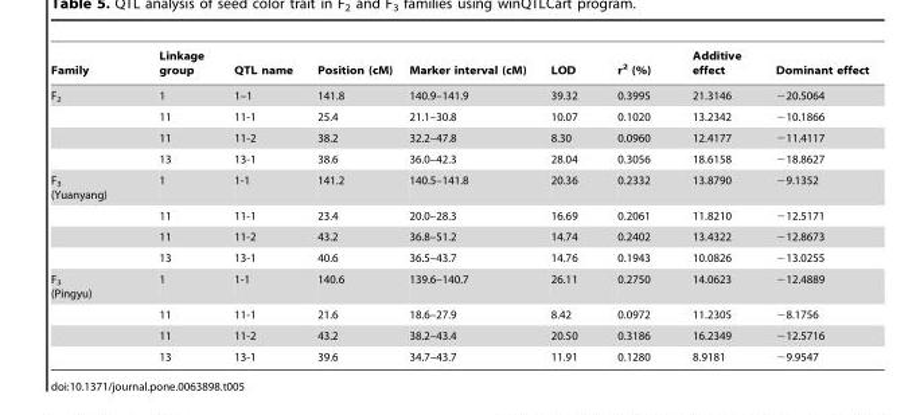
<table><thead><tr><td>Family</td><td>Linkage group</td><td>QTL name</td><td>Position (cM)</td><td>Marker interval (cM)</td><td>LOD</td><td>r<sup>2</sup> (%)</td><td>Additive effect</td><td>Dominant effect</td></tr></thead><tbody><tr><td rowspan="4">F<sub>2</sub></td><td>1</td><td>1–1</td><td>141.8</td><td>140.9–141.9</td><td>39.32</td><td>0.3995</td><td>21.3146</td><td>−20.5064</td></tr><tr><td>11</td><td>11-1</td><td>25.4</td><td>21.1–30.8</td><td>10.07</td><td>0.1020</td><td>13.2342</td><td>−10.1866</td></tr><tr><td>11</td><td>11-2</td><td>38.2</td><td>32.2–47.8</td><td>8.30</td><td>0.0960</td><td>12.4177</td><td>−11.4117</td></tr><tr><td>13</td><td>13-1</td><td>38.6</td><td>36.0–42.3</td><td>28.04</td><td>0.3056</td><td>18.6158</td><td>−18.8627</td></tr><tr><td rowspan="4">F<sub>3</sub> (Yuanyang)</td><td>1</td><td>1-1</td><td>141.2</td><td>140.5–141.8</td><td>20.36</td><td>0.2332</td><td>13.8790</td><td>−9.1352</td></tr><tr><td>11</td><td>11-1</td><td>23.4</td><td>20.0–28.3</td><td>16.69</td><td>0.2061</td><td>11.8210</td><td>−12.5171</td></tr><tr><td>11</td><td>11-2</td><td>43.2</td><td>36.8–51.2</td><td>14.74</td><td>0.2402</td><td>13.4322</td><td>−12.8673</td></tr><tr><td>13</td><td>13-1</td><td>40.6</td><td>36.5–43.7</td><td>14.76</td><td>0.1943</td><td>10.0826</td><td>−13.0255</td></tr><tr><td rowspan="4">F<sub>3</sub> (Pingyu)</td><td>1</td><td>1-1</td><td>140.6</td><td>139.6–140.7</td><td>26.11</td><td>0.2750</td><td>14.0623</td><td>−12.4889</td></tr><tr><td>11</td><td>11-1</td><td>21.6</td><td>18.6–27.9</td><td>8.42</td><td>0.0972</td><td>11.2305</td><td>−8.1756</td></tr><tr><td>11</td><td>11-2</td><td>43.2</td><td>38.2–43.4</td><td>20.50</td><td>0.3186</td><td>16.2349</td><td>−12.5716</td></tr><tr><td>13</td><td>13-1</td><td>39.6</td><td>34.7–43.7</td><td>11.91</td><td>0.1280</td><td>8.9181</td><td>−9.9547</td></tr></tbody></table>